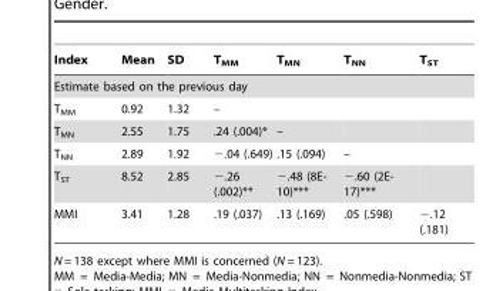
<table><thead><tr><td>Index</td><td>Mean</td><td>SD</td><td>T<sub>MM</sub></td><td>T<sub>MN</sub></td><td>T<sub>NN</sub></td><td>T<sub>ST</sub></td></tr></thead><tbody><tr><td colspan="7">Estimate based on the previous day</td></tr><tr><td>T<sub>MM</sub></td><td>0.92</td><td>1.32</td><td>–</td><td></td><td></td><td></td></tr><tr><td>T<sub>MN</sub></td><td>2.55</td><td>1.75</td><td>.24 (.004)*</td><td>–</td><td></td><td></td></tr><tr><td>T<sub>NN</sub></td><td>2.89</td><td>1.92</td><td>−.04 (.649)</td><td>.15 (.094)</td><td>–</td><td></td></tr><tr><td>T<sub>ST</sub></td><td>8.52</td><td>2.85</td><td>−.26 (.002)**</td><td>−.48 (8E- 10)***</td><td>−.60 (2E- 17)***</td><td></td></tr><tr><td>MMI</td><td>3.41</td><td>1.28</td><td>.19 (.037)</td><td>.13 (.169)</td><td>.05 (.598)</td><td>−.12 (.181)</td></tr></tbody></table>